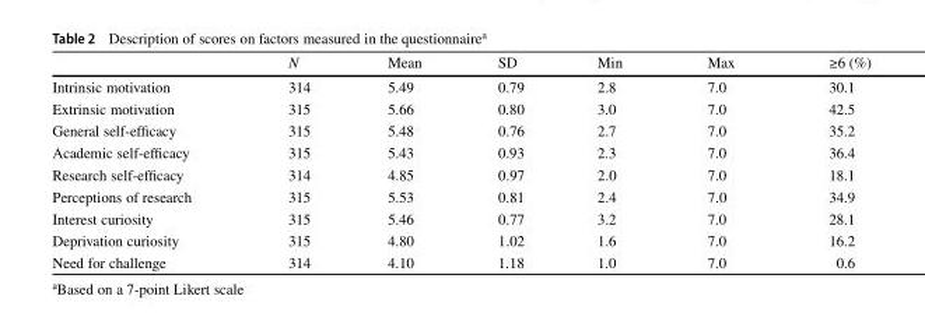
<table><thead><tr><td></td><td>N</td><td>Mean</td><td>SD</td><td>Min</td><td>Max</td><td>≥6 (%)</td></tr></thead><tbody><tr><td>Intrinsic motivation</td><td>314</td><td>5.49</td><td>0.79</td><td>2.8</td><td>7.0</td><td>30.1</td></tr><tr><td>Extrinsic motivation</td><td>315</td><td>5.66</td><td>0.80</td><td>3.0</td><td>7.0</td><td>42.5</td></tr><tr><td>General self-efficacy</td><td>315</td><td>5.48</td><td>0.76</td><td>2.7</td><td>7.0</td><td>35.2</td></tr><tr><td>Academic self-efficacy</td><td>315</td><td>5.43</td><td>0.93</td><td>2.3</td><td>7.0</td><td>36.4</td></tr><tr><td>Research self-efficacy</td><td>314</td><td>4.85</td><td>0.97</td><td>2.0</td><td>7.0</td><td>18.1</td></tr><tr><td>Perceptions of research</td><td>315</td><td>5.53</td><td>0.81</td><td>2.4</td><td>7.0</td><td>34.9</td></tr><tr><td>Interest curiosity</td><td>315</td><td>5.46</td><td>0.77</td><td>3.2</td><td>7.0</td><td>28.1</td></tr><tr><td>Deprivation curiosity</td><td>315</td><td>4.80</td><td>1.02</td><td>1.6</td><td>7.0</td><td>16.2</td></tr><tr><td>Need for challenge</td><td>314</td><td>4.10</td><td>1.18</td><td>1.0</td><td>7.0</td><td>0.6</td></tr></tbody></table>